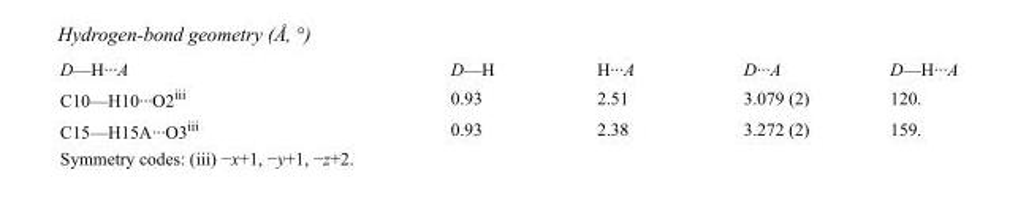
<table><tbody><tr><td>D—H···A</td><td>D—H</td><td>H···A</td><td>D···A</td><td>D—H···A</td></tr><tr><td>C10—H10···O2<sup>iii</sup></td><td>0.93</td><td>2.51</td><td>3.079 (2)</td><td>120.</td></tr><tr><td>C15—H15A···O3<sup>iii</sup></td><td>0.93</td><td>2.38</td><td>3.272 (2)</td><td>159.</td></tr></tbody></table>